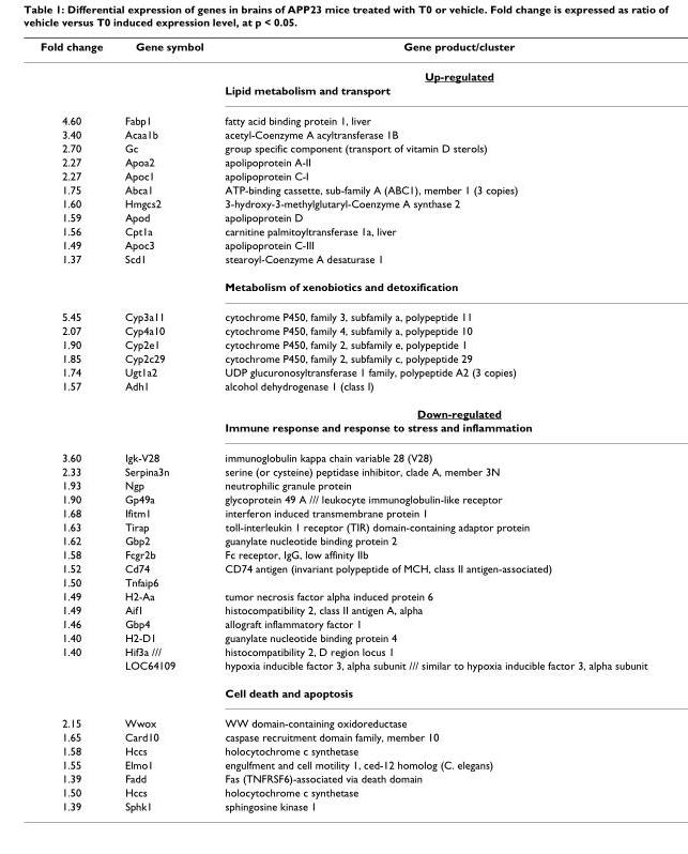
<table><thead><tr><td>Fold change</td><td>Gene symbol</td><td>Gene product/cluster</td></tr></thead><tbody><tr><td></td><td></td><td>Up-regulated</td></tr><tr><td></td><td></td><td>Lipid metabolism and transport</td></tr><tr><td>4.60</td><td>Fabp1</td><td>fatty acid binding protein 1, liver</td></tr><tr><td>3.40</td><td>Acaa1b</td><td>acetyl-Coenzyme A acyltransferase 1B</td></tr><tr><td>2.70</td><td>Gc</td><td>group specific component (transport of vitamin D sterols)</td></tr><tr><td>2.27</td><td>Apoa2</td><td>apolipoprotein A-II</td></tr><tr><td>2.27</td><td>Apoc1</td><td>apolipoprotein C-I</td></tr><tr><td>1.75</td><td>Abca1</td><td>ATP-binding cassette, sub-family A (ABC1), member 1 (3 copies)</td></tr><tr><td>1.60</td><td>Hmgcs2</td><td>3-hydroxy-3-methylglutaryl-Coenzyme A synthase 2</td></tr><tr><td>1.59</td><td>Apod</td><td>apolipoprotein D</td></tr><tr><td>1.56</td><td>Cpt1a</td><td>carnitine palmitoyltransferase 1a, liver</td></tr><tr><td>1.49</td><td>Apoc3</td><td>apolipoprotein C-III</td></tr><tr><td rowspan="2">1.37</td><td>Scd1</td><td>stearoyl-Coenzyme A desaturase 1</td></tr><tr><td></td><td>Metabolism of xenobiotics and detoxification</td></tr><tr><td>5.45</td><td>Cyp3a11</td><td>cytochrome P450, family 3, subfamily a, polypeptide 11</td></tr><tr><td>2.07</td><td>Cyp4a10</td><td>cytochrome P450, family 4, subfamily a, polypeptide 10</td></tr><tr><td>1.90</td><td>Cyp2e1</td><td>cytochrome P450, family 2, subfamily e, polypeptide 1</td></tr><tr><td>1.85</td><td>Cyp2c29</td><td>cytochrome P450, family 2, subfamily c, polypeptide 29</td></tr><tr><td>1.74</td><td>Ugt1a2</td><td>UDP glucuronosyltransferase 1 family, polypeptide A2 (3 copies)</td></tr><tr><td rowspan="3">1.57</td><td>Adh1</td><td>alcohol dehydrogenase 1 (class I)</td></tr><tr><td></td><td>Down-regulated</td></tr><tr><td></td><td>Immune response and response to stress and inflammation</td></tr><tr><td>3.60</td><td>Igk-V28</td><td>immunoglobulin kappa chain variable 28 (V28)</td></tr><tr><td>2.33</td><td>Serpina3n</td><td>serine (or cysteine) peptidase inhibitor, clade A, member 3N</td></tr><tr><td>1.93</td><td>Ngp</td><td>neutrophilic granule protein</td></tr><tr><td>1.90</td><td>Gp49a</td><td>glycoprotein 49 A /// leukocyte immunoglobulin-like receptor</td></tr><tr><td>1.68</td><td>Ifitm1</td><td>interferon induced transmembrane protein 1</td></tr><tr><td>1.63</td><td>Tirap</td><td>toll-interleukin 1 receptor (TIR) domain-containing adaptor protein</td></tr><tr><td>1.62</td><td>Gbp2</td><td>guanylate nucleotide binding protein 2</td></tr><tr><td>1.58</td><td>Fcgr2b</td><td>Fc receptor, IgG, low affinity IIb</td></tr><tr><td>1.52</td><td>Cd74</td><td>CD74 antigen (invariant polypeptide of MCH, class II antigen-associated)</td></tr><tr><td>1.50</td><td>Tnfaip6</td><td></td></tr><tr><td>1.49</td><td>H2-Aa</td><td>tumor necrosis factor alpha induced protein 6</td></tr><tr><td>1.49</td><td>Aif1</td><td>histocompatibility 2, class II antigen A, alpha</td></tr><tr><td>1.46</td><td>Gbp4</td><td>allograft inflammatory factor 1</td></tr><tr><td>1.40</td><td>H2-D1</td><td>guanylate nucleotide binding protein 4</td></tr><tr><td rowspan="3">1.40</td><td>Hif3a ///</td><td>histocompatibility 2, D region locus 1</td></tr><tr><td>LOC64109</td><td>hypoxia inducible factor 3, alpha subunit /// similar to hypoxia inducible factor 3, alpha subunit</td></tr><tr><td></td><td>Cell death and apoptosis</td></tr><tr><td>2.15</td><td>Wwox</td><td>WW domain-containing oxidoreductase</td></tr><tr><td>1.65</td><td>Card10</td><td>caspase recruitment domain family, member 10</td></tr><tr><td>1.58</td><td>Hccs</td><td>holocytochrome c synthetase</td></tr><tr><td>1.55</td><td>Elmo1</td><td>engulfment and cell motility 1, ced-12 homolog (C. elegans)</td></tr><tr><td>1.39</td><td>Fadd</td><td>Fas (TNFRSF6)-associated via death domain</td></tr><tr><td>1.50</td><td>Hccs</td><td>holocytochrome c synthetase</td></tr><tr><td>1.39</td><td>Sphk1</td><td>sphingosine kinase 1</td></tr></tbody></table>